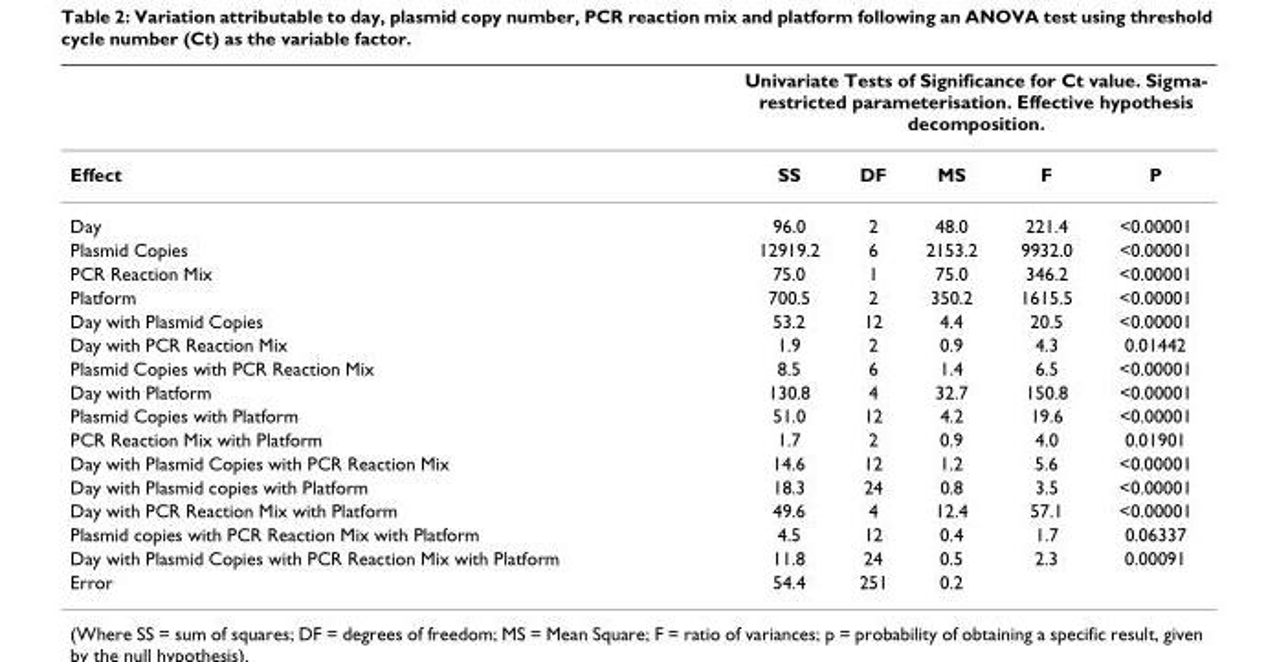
<table><thead><tr><td rowspan="2">Effect</td><td colspan="5">Univariate Tests of Significance for Ct value. Sigma- restricted parameterisation. Effective hypothesis decomposition.</td></tr><tr><td>SS</td><td>DF</td><td>MS</td><td>F</td><td>P</td></tr></thead><tbody><tr><td>Day</td><td>96.0</td><td>2</td><td>48.0</td><td>221.4</td><td>&lt;0.00001</td></tr><tr><td>Plasmid Copies</td><td>12919.2</td><td>6</td><td>2153.2</td><td>9932.0</td><td>&lt;0.00001</td></tr><tr><td>PCR Reaction Mix</td><td>75.0</td><td>1</td><td>75.0</td><td>346.2</td><td>&lt;0.00001</td></tr><tr><td>Platform</td><td>700.5</td><td>2</td><td>350.2</td><td>1615.5</td><td>&lt;0.00001</td></tr><tr><td>Day with Plasmid Copies</td><td>53.2</td><td>12</td><td>4.4</td><td>20.5</td><td>&lt;0.00001</td></tr><tr><td>Day with PCR Reaction Mix</td><td>1.9</td><td>2</td><td>0.9</td><td>4.3</td><td>0.01442</td></tr><tr><td>Plasmid Copies with PCR Reaction Mix</td><td>8.5</td><td>6</td><td>1.4</td><td>6.5</td><td>&lt;0.00001</td></tr><tr><td>Day with Platform</td><td>130.8</td><td>4</td><td>32.7</td><td>150.8</td><td>&lt;0.00001</td></tr><tr><td>Plasmid Copies with Platform</td><td>51.0</td><td>12</td><td>4.2</td><td>19.6</td><td>&lt;0.00001</td></tr><tr><td>PCR Reaction Mix with Platform</td><td>1.7</td><td>2</td><td>0.9</td><td>4.0</td><td>0.01901</td></tr><tr><td>Day with Plasmid Copies with PCR Reaction Mix</td><td>14.6</td><td>12</td><td>1.2</td><td>5.6</td><td>&lt;0.00001</td></tr><tr><td>Day with Plasmid copies with Platform</td><td>18.3</td><td>24</td><td>0.8</td><td>3.5</td><td>&lt;0.00001</td></tr><tr><td>Day with PCR Reaction Mix with Platform</td><td>49.6</td><td>4</td><td>12.4</td><td>57.1</td><td>&lt;0.00001</td></tr><tr><td>Plasmid copies with PCR Reaction Mix with Platform</td><td>4.5</td><td>12</td><td>0.4</td><td>1.7</td><td>0.06337</td></tr><tr><td>Day with Plasmid Copies with PCR Reaction Mix with Platform</td><td>11.8</td><td>24</td><td>0.5</td><td>2.3</td><td>0.00091</td></tr><tr><td>Error</td><td>54.4</td><td>251</td><td>0.2</td><td></td><td></td></tr></tbody></table>